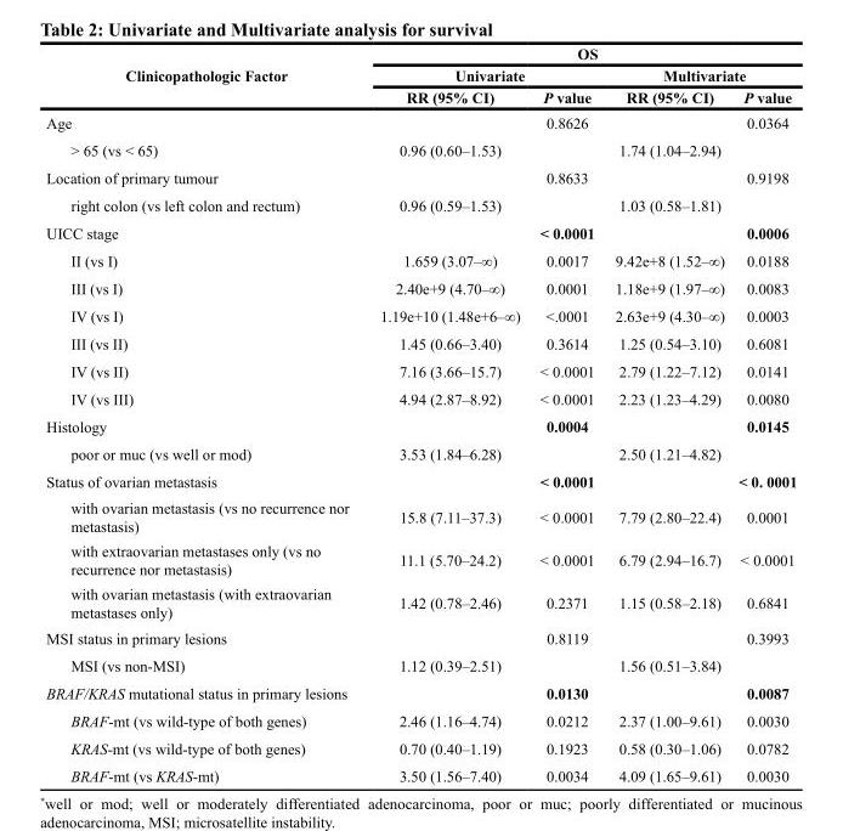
<table><thead><tr><td rowspan="3">Clinicopathologic Factor</td><td colspan="4">OS</td></tr><tr><td colspan="2">Univariate</td><td colspan="2">Multivariate</td></tr><tr><td>RR (95% CI)</td><td>P value</td><td>RR (95% CI)</td><td>P value</td></tr></thead><tbody><tr><td>Age</td><td></td><td>0.8626</td><td></td><td>0.0364</td></tr><tr><td>&gt; 65 (vs &lt; 65)</td><td>0.96 (0.60–1.53)</td><td></td><td>1.74 (1.04–2.94)</td><td></td></tr><tr><td>Location of primary tumour</td><td></td><td>0.8633</td><td></td><td>0.9198</td></tr><tr><td>right colon (vs left colon and rectum)</td><td>0.96 (0.59–1.53)</td><td></td><td>1.03 (0.58–1.81)</td><td></td></tr><tr><td>UICC stage</td><td></td><td>&lt; 0.0001</td><td></td><td>0.0006</td></tr><tr><td>II (vs I)</td><td>1.659 (3.07–∞)</td><td>0.0017</td><td>9.42e+8 (1.52–∞)</td><td>0.0188</td></tr><tr><td>III (vs I)</td><td>2.40e+9 (4.70–∞)</td><td>0.0001</td><td>1.18e+9 (1.97–∞)</td><td>0.0083</td></tr><tr><td>IV (vs I)</td><td>1.19e+10 (1.48e+6–∞)</td><td>&lt;.0001</td><td>2.63e+9 (4.30–∞)</td><td>0.0003</td></tr><tr><td>III (vs II)</td><td>1.45 (0.66–3.40)</td><td>0.3614</td><td>1.25 (0.54–3.10)</td><td>0.6081</td></tr><tr><td>IV (vs II)</td><td>7.16 (3.66–15.7)</td><td>&lt; 0.0001</td><td>2.79 (1.22–7.12)</td><td>0.0141</td></tr><tr><td>IV (vs III)</td><td>4.94 (2.87–8.92)</td><td>&lt; 0.0001</td><td>2.23 (1.23–4.29)</td><td>0.0080</td></tr><tr><td>Histology</td><td></td><td>0.0004</td><td></td><td>0.0145</td></tr><tr><td>poor or muc (vs well or mod)</td><td>3.53 (1.84–6.28)</td><td></td><td>2.50 (1.21–4.82)</td><td></td></tr><tr><td>Status of ovarian metastasis</td><td></td><td>&lt; 0.0001</td><td></td><td>&lt; 0. 0001</td></tr><tr><td>with ovarian metastasis (vs no recurrence nor metastasis)</td><td>15.8 (7.11–37.3)</td><td>&lt; 0.0001</td><td>7.79 (2.80–22.4)</td><td>0.0001</td></tr><tr><td>with extraovarian metastases only (vs no recurrence nor metastasis)</td><td>11.1 (5.70–24.2)</td><td>&lt; 0.0001</td><td>6.79 (2.94–16.7)</td><td>&lt; 0.0001</td></tr><tr><td>with ovarian metastasis (with extraovarian metastases only)</td><td>1.42 (0.78–2.46)</td><td>0.2371</td><td>1.15 (0.58–2.18)</td><td>0.6841</td></tr><tr><td>MSI status in primary lesions</td><td></td><td>0.8119</td><td></td><td>0.3993</td></tr><tr><td>MSI (vs non-MSI)</td><td>1.12 (0.39–2.51)</td><td></td><td>1.56 (0.51–3.84)</td><td></td></tr><tr><td>BRAF/KRAS mutational status in primary lesions</td><td></td><td>0.0130</td><td></td><td>0.0087</td></tr><tr><td>BRAF-mt (vs wild-type of both genes)</td><td>2.46 (1.16–4.74)</td><td>0.0212</td><td>2.37 (1.00–9.61)</td><td>0.0030</td></tr><tr><td>KRAS-mt (vs wild-type of both genes)</td><td>0.70 (0.40–1.19)</td><td>0.1923</td><td>0.58 (0.30–1.06)</td><td>0.0782</td></tr><tr><td>BRAF-mt (vs KRAS-mt)</td><td>3.50 (1.56–7.40)</td><td>0.0034</td><td>4.09 (1.65–9.61)</td><td>0.0030</td></tr></tbody></table>